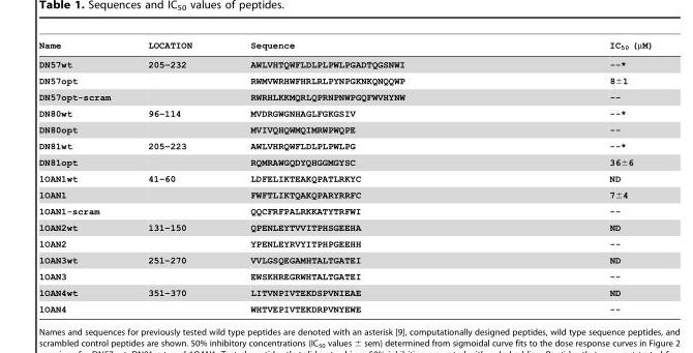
<table><thead><tr><td>Name</td><td>LOCATION</td><td>Sequence</td><td>IC<sub>50</sub> (µM)</td></tr></thead><tbody><tr><td>DN57wt</td><td>205–232</td><td>AWLVHTQWFLDLPLPWLPGADTQGSNWI</td><td>--*</td></tr><tr><td>DN57opt</td><td></td><td>RWMVWRHWFHRLRLPYNPGKNKQNQQWP</td><td>8±1</td></tr><tr><td>DN57opt-scram</td><td></td><td>RWRHLKKMQRLQPRNPNWPGQFWVHYNW</td><td>--</td></tr><tr><td>DN80wt</td><td>96–114</td><td>MVDRGWGNHAGLFGKGSIV</td><td>--*</td></tr><tr><td>DN80opt</td><td></td><td>MVIVQHQWMQIMRWPWQPE</td><td>--</td></tr><tr><td>DN81wt</td><td>205–223</td><td>AWLVHRQWFLDLPLPWLPG</td><td>--*</td></tr><tr><td>DN81opt</td><td></td><td>RQMRAWGQDYQHGGMGYSC</td><td>36±6</td></tr><tr><td>1OAN1wt</td><td>41–60</td><td>LDFELIKTEAKQPATLRKYC</td><td>ND</td></tr><tr><td>1OAN1</td><td></td><td>FWFTLIKTQAKQPARYRRFC</td><td>7±4</td></tr><tr><td>1OAN1-scram</td><td></td><td>QQCFRFPALRKKATYTRFWI</td><td>--</td></tr><tr><td>1OAN2wt</td><td>131–150</td><td>QPENLEYTVVITPHSGEEHA</td><td>ND</td></tr><tr><td>1OAN2</td><td></td><td>YPENLEYRVYITPHPGEEHH</td><td>--</td></tr><tr><td>1OAN3wt</td><td>251–270</td><td>VVLGSQEGAMHTALTGATEI</td><td>ND</td></tr><tr><td>1OAN3</td><td></td><td>EWSKHREGRWHTALTGATEI</td><td>--</td></tr><tr><td>1OAN4wt</td><td>351–370</td><td>LITVNPIVTEKDSPVNIEAE</td><td>ND</td></tr><tr><td>1OAN4</td><td></td><td>WHTVEPIVTEKDRPVNYEWE</td><td>--</td></tr></tbody></table>